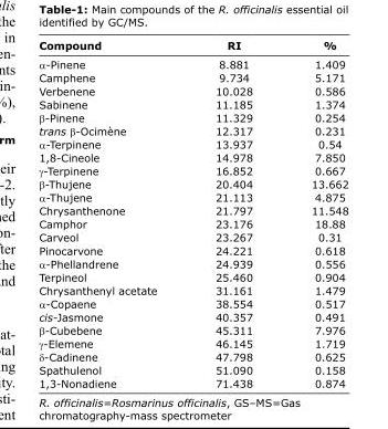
<table><thead><tr><td>Compound</td><td>RI</td><td>%</td></tr></thead><tbody><tr><td>α-Pinene</td><td>8.881</td><td>1.409</td></tr><tr><td>Camphene</td><td>9.734</td><td>5.171</td></tr><tr><td>Verbenene</td><td>10.028</td><td>0.586</td></tr><tr><td>Sabinene</td><td>11.185</td><td>1.374</td></tr><tr><td>β-Pinene</td><td>11.329</td><td>0.254</td></tr><tr><td>trans β-Ocimène</td><td>12.317</td><td>0.231</td></tr><tr><td>α-Terpinene</td><td>13.937</td><td>0.54</td></tr><tr><td>1,8-Cineole</td><td>14.978</td><td>7.850</td></tr><tr><td>γ-Terpinene</td><td>16.852</td><td>0.667</td></tr><tr><td>β-Thujene</td><td>20.404</td><td>13.662</td></tr><tr><td>α-Thujene</td><td>21.113</td><td>4.875</td></tr><tr><td>Chrysanthenone</td><td>21.797</td><td>11.548</td></tr><tr><td>Camphor</td><td>23.176</td><td>18.88</td></tr><tr><td>Carveol</td><td>23.267</td><td>0.31</td></tr><tr><td>Pinocarvone</td><td>24.221</td><td>0.618</td></tr><tr><td>α-Phellandrene</td><td>24.939</td><td>0.556</td></tr><tr><td>Terpineol</td><td>25.460</td><td>0.904</td></tr><tr><td>Chrysanthenyl acetate</td><td>31.161</td><td>1.479</td></tr><tr><td>α-Copaene</td><td>38.554</td><td>0.517</td></tr><tr><td>cis-Jasmone</td><td>40.357</td><td>0.491</td></tr><tr><td>β-Cubebene</td><td>45.311</td><td>7.976</td></tr><tr><td>γ-Elemene</td><td>46.145</td><td>1.719</td></tr><tr><td>δ-Cadinene</td><td>47.798</td><td>0.625</td></tr><tr><td>Spathulenol</td><td>51.090</td><td>0.158</td></tr><tr><td>1,3-Nonadiene</td><td>71.438</td><td>0.874</td></tr></tbody></table>